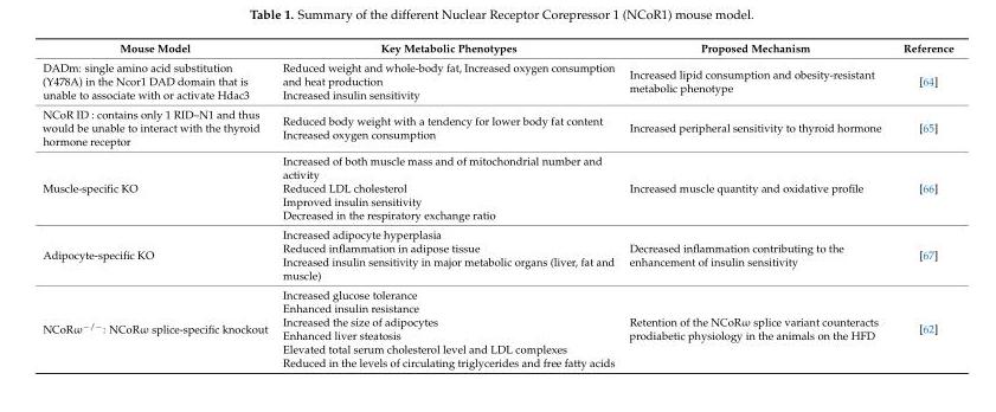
<table><thead><tr><td>Mouse Model</td><td>Key Metabolic Phenotypes</td><td>Proposed Mechanism</td><td>Reference</td></tr></thead><tbody><tr><td>DADm: single amino acid substitution (Y478A) in the Ncor1 DAD domain that is unable to associate with or activate Hdac3</td><td>Reduced weight and whole-body fat, Increased oxygen consumption and heat production Increased insulin sensitivity</td><td>Increased lipid consumption and obesity-resistant metabolic phenotype</td><td>[64]</td></tr><tr><td>NCoR ID : contains only 1 RID–N1 and thus would be unable to interact with the thyroid hormone receptor</td><td>Reduced body weight with a tendency for lower body fat content Increased oxygen consumption</td><td>Increased peripheral sensitivity to thyroid hormone</td><td>[65]</td></tr><tr><td>Muscle-specific KO</td><td>Increased of both muscle mass and of mitochondrial number and activity Reduced LDL cholesterol Improved insulin sensitivity Decreased in the respiratory exchange ratio</td><td>Increased muscle quantity and oxidative profile</td><td>[66]</td></tr><tr><td>Adipocyte-specific KO</td><td>Increased adipocyte hyperplasia Reduced inflammation in adipose tissue Increased insulin sensitivity in major metabolic organs (liver, fat and muscle)</td><td>Decreased inflammation contributing to the enhancement of insulin sensitivity</td><td>[67]</td></tr><tr><td>NCoRω<sup>−/−</sup>: NCoRω splice-specific knockout</td><td>Increased glucose tolerance Enhanced insulin resistance Increased the size of adipocytes Enhanced liver steatosis Elevated total serum cholesterol level and LDL complexes Reduced in the levels of circulating triglycerides and free fatty acids</td><td>Retention of the NCoRω splice variant counteracts prodiabetic physiology in the animals on the HFD</td><td>[62]</td></tr></tbody></table>